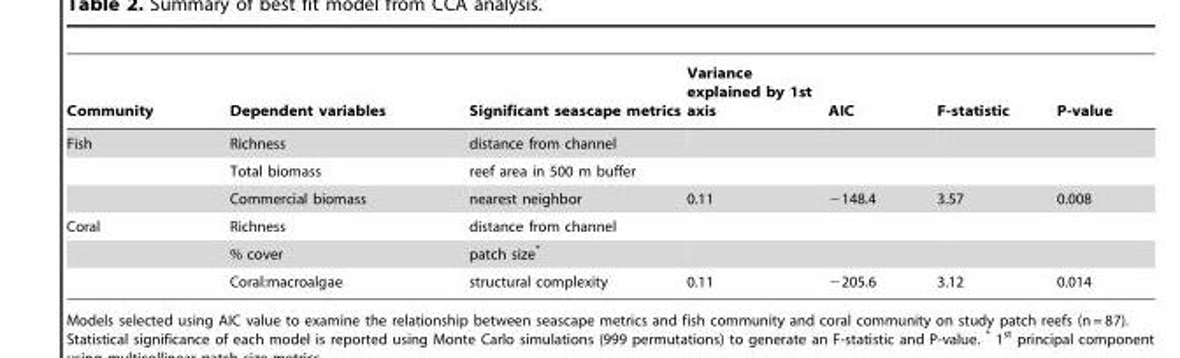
<table><thead><tr><td>Community</td><td>Dependent variables</td><td>Significant seascape metrics</td><td>Variance explained by 1st axis</td><td>AIC</td><td>F-statistic</td><td>P-value</td></tr></thead><tbody><tr><td rowspan="3">Fish</td><td>Richness</td><td>distance from channel</td><td></td><td></td><td></td><td></td></tr><tr><td>Total biomass</td><td>reef area in 500 m buffer</td><td></td><td></td><td></td><td></td></tr><tr><td>Commercial biomass</td><td>nearest neighbor</td><td>0.11</td><td>−148.4</td><td>3.57</td><td>0.008</td></tr><tr><td rowspan="3">Coral</td><td>Richness</td><td>distance from channel</td><td></td><td></td><td></td><td></td></tr><tr><td>% cover</td><td>patch size*</td><td></td><td></td><td></td><td></td></tr><tr><td>Coral:macroalgae</td><td>structural complexity</td><td>0.11</td><td>−205.6</td><td>3.12</td><td>0.014</td></tr></tbody></table>